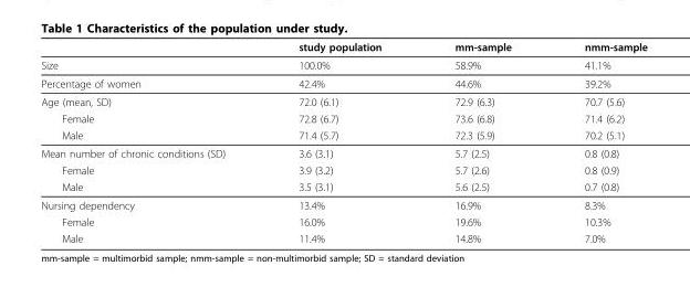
<table><thead><tr><td></td><td>study population</td><td>mm-sample</td><td>nmm-sample</td></tr></thead><tbody><tr><td>Size</td><td>100.0%</td><td>58.9%</td><td>41.1%</td></tr><tr><td>Percentage of women</td><td>42.4%</td><td>44.6%</td><td>39.2%</td></tr><tr><td>Age (mean, SD)</td><td>72.0 (6.1)</td><td>72.9 (6.3)</td><td>70.7 (5.6)</td></tr><tr><td>Female</td><td>72.8 (6.7)</td><td>73.6 (6.8)</td><td>71.4 (6.2)</td></tr><tr><td>Male</td><td>71.4 (5.7)</td><td>72.3 (5.9)</td><td>70.2 (5.1)</td></tr><tr><td>Mean number of chronic conditions (SD)</td><td>3.6 (3.1)</td><td>5.7 (2.5)</td><td>0.8 (0.8)</td></tr><tr><td>Female</td><td>3.9 (3.2)</td><td>5.7 (2.6)</td><td>0.8 (0.9)</td></tr><tr><td>Male</td><td>3.5 (3.1)</td><td>5.6 (2.5)</td><td>0.7 (0.8)</td></tr><tr><td>Nursing dependency</td><td>13.4%</td><td>16.9%</td><td>8.3%</td></tr><tr><td>Female</td><td>16.0%</td><td>19.6%</td><td>10.3%</td></tr><tr><td>Male</td><td>11.4%</td><td>14.8%</td><td>7.0%</td></tr></tbody></table>